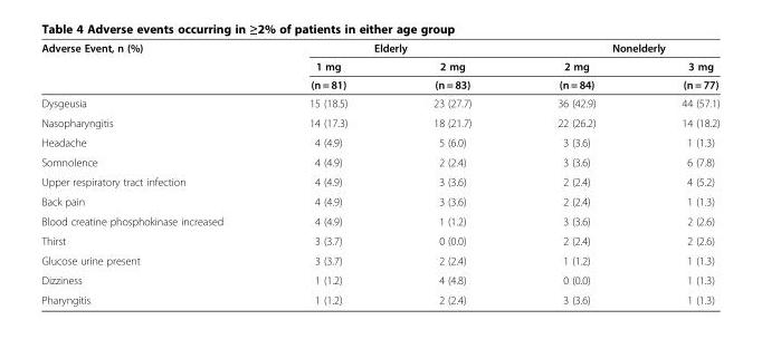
<table><thead><tr><td rowspan="3">Adverse Event, n (%)</td><td colspan="2">Elderly</td><td colspan="2">Nonelderly</td></tr><tr><td rowspan="2">1 mg (n = 81)</td><td rowspan="2">2 mg (n = 83)</td><td rowspan="2">2 mg (n = 84)</td><td rowspan="2">3 mg (n = 77)</td></tr><tr></tr></thead><tbody><tr><td>Dysgeusia</td><td>15 (18.5)</td><td>23 (27.7)</td><td>36 (42.9)</td><td>44 (57.1)</td></tr><tr><td>Nasopharyngitis</td><td>14 (17.3)</td><td>18 (21.7)</td><td>22 (26.2)</td><td>14 (18.2)</td></tr><tr><td>Headache</td><td>4 (4.9)</td><td>5 (6.0)</td><td>3 (3.6)</td><td>1 (1.3)</td></tr><tr><td>Somnolence</td><td>4 (4.9)</td><td>2 (2.4)</td><td>3 (3.6)</td><td>6 (7.8)</td></tr><tr><td>Upper respiratory tract infection</td><td>4 (4.9)</td><td>3 (3.6)</td><td>2 (2.4)</td><td>4 (5.2)</td></tr><tr><td>Back pain</td><td>4 (4.9)</td><td>3 (3.6)</td><td>2 (2.4)</td><td>1 (1.3)</td></tr><tr><td>Blood creatine phosphokinase increased</td><td>4 (4.9)</td><td>1 (1.2)</td><td>3 (3.6)</td><td>2 (2.6)</td></tr><tr><td>Thirst</td><td>3 (3.7)</td><td>0 (0.0)</td><td>2 (2.4)</td><td>2 (2.6)</td></tr><tr><td>Glucose urine present</td><td>3 (3.7)</td><td>2 (2.4)</td><td>1 (1.2)</td><td>1 (1.3)</td></tr><tr><td>Dizziness</td><td>1 (1.2)</td><td>4 (4.8)</td><td>0 (0.0)</td><td>1 (1.3)</td></tr><tr><td>Pharyngitis</td><td>1 (1.2)</td><td>2 (2.4)</td><td>3 (3.6)</td><td>1 (1.3)</td></tr></tbody></table>